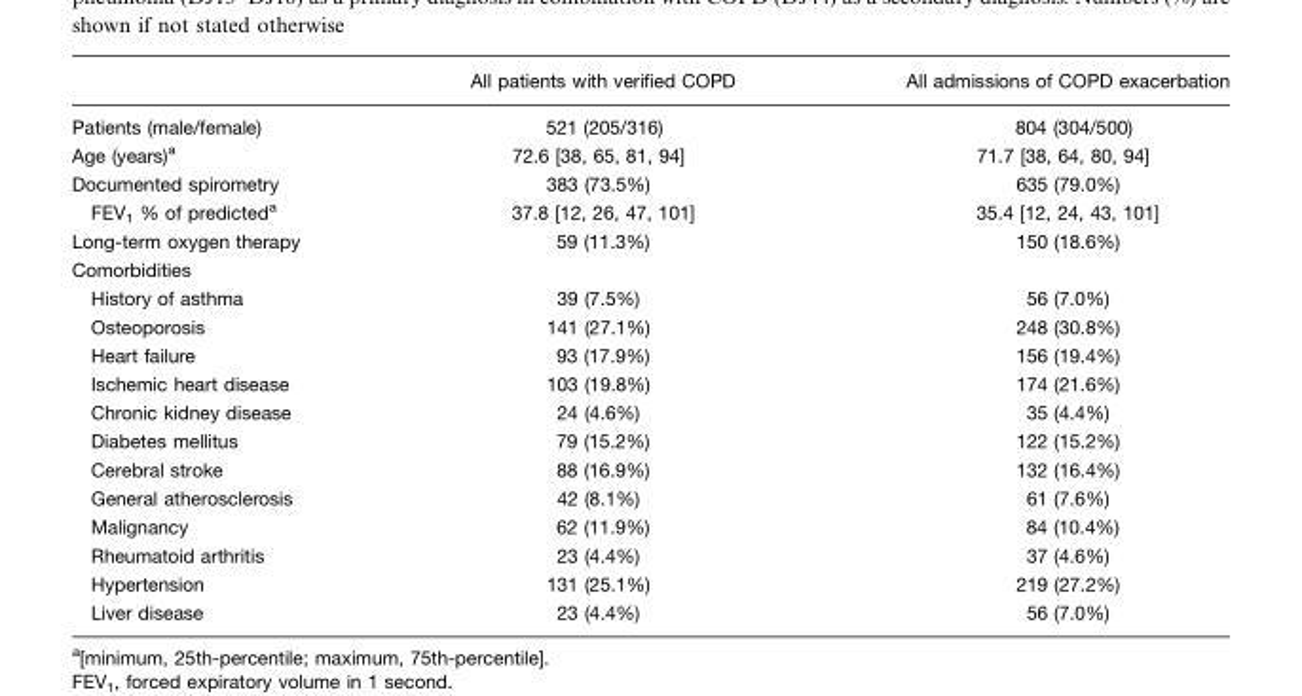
<table><thead><tr><td></td><td>All patients with verified COPD</td><td>All admissions of COPD exacerbation</td></tr></thead><tbody><tr><td>Patients (male/female)</td><td>521 (205/316)</td><td>804 (304/500)</td></tr><tr><td>Age (years)<sup>a</sup></td><td>72.6 [38, 65, 81, 94]</td><td>71.7 [38, 64, 80, 94]</td></tr><tr><td>Documented spirometry</td><td>383 (73.5%)</td><td>635 (79.0%)</td></tr><tr><td>FEV<sub>1</sub> % of predicted<sup>a</sup></td><td>37.8 [12, 26, 47, 101]</td><td>35.4 [12, 24, 43, 101]</td></tr><tr><td>Long-term oxygen therapy</td><td>59 (11.3%)</td><td>150 (18.6%)</td></tr><tr><td colspan="3">Comorbidities</td></tr><tr><td>History of asthma</td><td>39 (7.5%)</td><td>56 (7.0%)</td></tr><tr><td>Osteoporosis</td><td>141 (27.1%)</td><td>248 (30.8%)</td></tr><tr><td>Heart failure</td><td>93 (17.9%)</td><td>156 (19.4%)</td></tr><tr><td>Ischemic heart disease</td><td>103 (19.8%)</td><td>174 (21.6%)</td></tr><tr><td>Chronic kidney disease</td><td>24 (4.6%)</td><td>35 (4.4%)</td></tr><tr><td>Diabetes mellitus</td><td>79 (15.2%)</td><td>122 (15.2%)</td></tr><tr><td>Cerebral stroke</td><td>88 (16.9%)</td><td>132 (16.4%)</td></tr><tr><td>General atherosclerosis</td><td>42 (8.1%)</td><td>61 (7.6%)</td></tr><tr><td>Malignancy</td><td>62 (11.9%)</td><td>84 (10.4%)</td></tr><tr><td>Rheumatoid arthritis</td><td>23 (4.4%)</td><td>37 (4.6%)</td></tr><tr><td>Hypertension</td><td>131 (25.1%)</td><td>219 (27.2%)</td></tr><tr><td>Liver disease</td><td>23 (4.4%)</td><td>56 (7.0%)</td></tr></tbody></table>